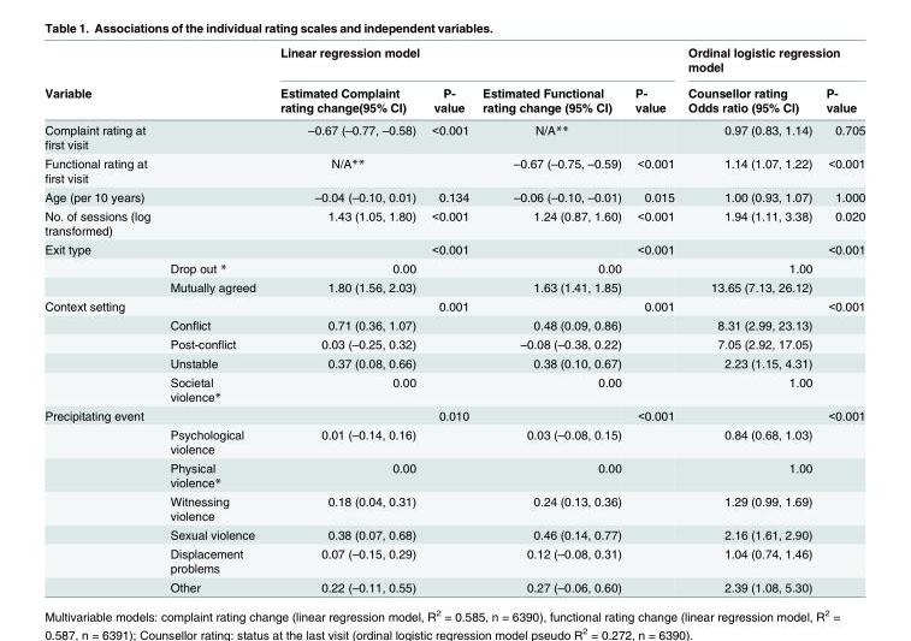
<table><thead><tr><td rowspan="2">Variable</td><td rowspan="2"></td><td colspan="4">Linear regression model</td><td colspan="2">Ordinal logistic regression model</td></tr><tr><td>Estimated Complaint rating change(95% CI)</td><td>P- value</td><td>Estimated Functional rating change (95% CI)</td><td>P- value</td><td>Counsellor rating Odds ratio (95% CI)</td><td>P- value</td></tr></thead><tbody><tr><td>Complaint rating at first visit</td><td></td><td>–0.67 (–0.77, –0.58)</td><td>&lt;0.001</td><td>N/A**</td><td></td><td>0.97 (0.83, 1.14)</td><td>0.705</td></tr><tr><td>Functional rating at first visit</td><td></td><td>N/A**</td><td></td><td>–0.67 (–0.75, –0.59)</td><td>&lt;0.001</td><td>1.14 (1.07, 1.22)</td><td>&lt;0.001</td></tr><tr><td>Age (per 10 years)</td><td></td><td>–0.04 (–0.10, 0.01)</td><td>0.134</td><td>–0.06 (–0.10, –0.01)</td><td>0.015</td><td>1.00 (0.93, 1.07)</td><td>1.000</td></tr><tr><td>No. of sessions (log transformed)</td><td></td><td>1.43 (1.05, 1.80)</td><td>&lt;0.001</td><td>1.24 (0.87, 1.60)</td><td>&lt;0.001</td><td>1.94 (1.11, 3.38)</td><td>0.020</td></tr><tr><td rowspan="3">Exit type</td><td></td><td></td><td>&lt;0.001</td><td></td><td>&lt;0.001</td><td></td><td>&lt;0.001</td></tr><tr><td>Drop out *</td><td>0.00</td><td></td><td>0.00</td><td></td><td>1.00</td><td></td></tr><tr><td>Mutually agreed</td><td>1.80 (1.56, 2.03)</td><td></td><td>1.63 (1.41, 1.85)</td><td></td><td>13.65 (7.13, 26.12)</td><td></td></tr><tr><td rowspan="5">Context setting</td><td></td><td></td><td>0.001</td><td></td><td>0.001</td><td></td><td>&lt;0.001</td></tr><tr><td>Conflict</td><td>0.71 (0.36, 1.07)</td><td></td><td>0.48 (0.09, 0.86)</td><td></td><td>8.31 (2.99, 23.13)</td><td></td></tr><tr><td>Post-conflict</td><td>0.03 (–0.25, 0.32)</td><td></td><td>–0.08 (–0.38, 0.22)</td><td></td><td>7.05 (2.92, 17.05)</td><td></td></tr><tr><td>Unstable</td><td>0.37 (0.08, 0.66)</td><td></td><td>0.38 (0.10, 0.67)</td><td></td><td>2.23 (1.15, 4.31)</td><td></td></tr><tr><td>Societal violence*</td><td>0.00</td><td></td><td>0.00</td><td></td><td>1.00</td><td></td></tr><tr><td rowspan="7">Precipitating event</td><td></td><td></td><td>0.010</td><td></td><td>&lt;0.001</td><td></td><td>&lt;0.001</td></tr><tr><td>Psychological violence</td><td>0.01 (–0.14, 0.16)</td><td></td><td>0.03 (–0.08, 0.15)</td><td></td><td>0.84 (0.68, 1.03)</td><td></td></tr><tr><td>Physical violence*</td><td>0.00</td><td></td><td>0.00</td><td></td><td>1.00</td><td></td></tr><tr><td>Witnessing violence</td><td>0.18 (0.04, 0.31)</td><td></td><td>0.24 (0.13, 0.36)</td><td></td><td>1.29 (0.99, 1.69)</td><td></td></tr><tr><td>Sexual violence</td><td>0.38 (0.07, 0.68)</td><td></td><td>0.46 (0.14, 0.77)</td><td></td><td>2.16 (1.61, 2.90)</td><td></td></tr><tr><td>Displacement problems</td><td>0.07 (–0.15, 0.29)</td><td></td><td>0.12 (–0.08, 0.31)</td><td></td><td>1.04 (0.74, 1.46)</td><td></td></tr><tr><td>Other</td><td>0.22 (–0.11, 0.55)</td><td></td><td>0.27 (–0.06, 0.60)</td><td></td><td>2.39 (1.08, 5.30)</td><td></td></tr></tbody></table>